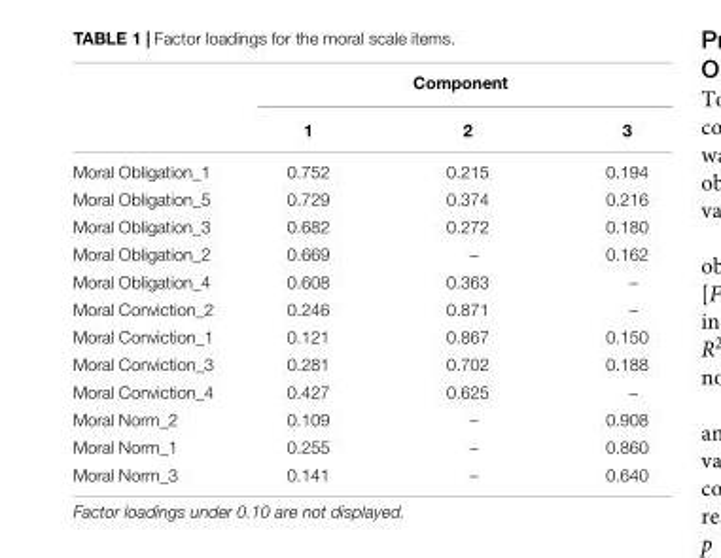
<table><thead><tr><td rowspan="2"></td><td colspan="3">Component</td></tr><tr><td>1</td><td>2</td><td>3</td></tr></thead><tbody><tr><td>Moral Obligation_1</td><td>0.752</td><td>0.215</td><td>0.194</td></tr><tr><td>Moral Obligation_5</td><td>0.729</td><td>0.374</td><td>0.216</td></tr><tr><td>Moral Obligation_3</td><td>0.682</td><td>0.272</td><td>0.180</td></tr><tr><td>Moral Obligation_2</td><td>0.669</td><td>–</td><td>0.162</td></tr><tr><td>Moral Obligation_4</td><td>0.608</td><td>0.363</td><td>–</td></tr><tr><td>Moral Conviction_2</td><td>0.246</td><td>0.871</td><td>–</td></tr><tr><td>Moral Conviction_1</td><td>0.121</td><td>0.867</td><td>0.150</td></tr><tr><td>Moral Conviction_3</td><td>0.281</td><td>0.702</td><td>0.188</td></tr><tr><td>Moral Conviction_4</td><td>0.427</td><td>0.625</td><td>–</td></tr><tr><td>Moral Norm_2</td><td>0.109</td><td>–</td><td>0.908</td></tr><tr><td>Moral Norm_1</td><td>0.255</td><td>–</td><td>0.860</td></tr><tr><td>Moral Norm_3</td><td>0.141</td><td>–</td><td>0.640</td></tr></tbody></table>